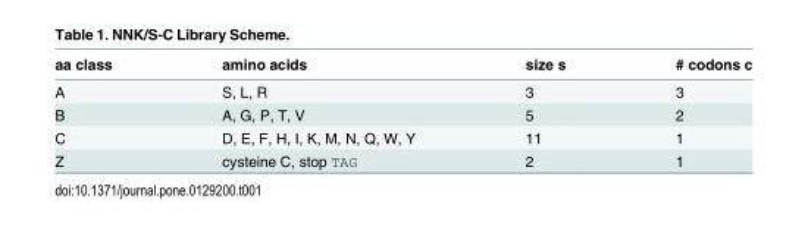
<table><thead><tr><td>aa class</td><td>amino acids</td><td>size s</td><td># codons c</td></tr></thead><tbody><tr><td>A</td><td>S, L, R</td><td>3</td><td>3</td></tr><tr><td>B</td><td>A, G, P, T, V</td><td>5</td><td>2</td></tr><tr><td>C</td><td>D, E, F, H, I, K, M, N, Q, W, Y</td><td>11</td><td>1</td></tr><tr><td>Z</td><td>cysteine C, stop TAG</td><td>2</td><td>1</td></tr></tbody></table>